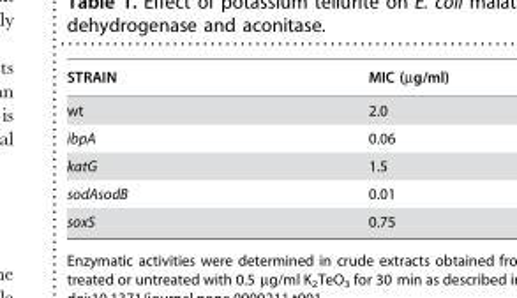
<table><thead><tr><td>STRAIN</td><td>MIC (µg/ml)</td></tr></thead><tbody><tr><td>wt</td><td>2.0</td></tr><tr><td>ibpA</td><td>0.06</td></tr><tr><td>katG</td><td>1.5</td></tr><tr><td>sodAsodB</td><td>0.01</td></tr><tr><td>soxS</td><td>0.75</td></tr></tbody></table>